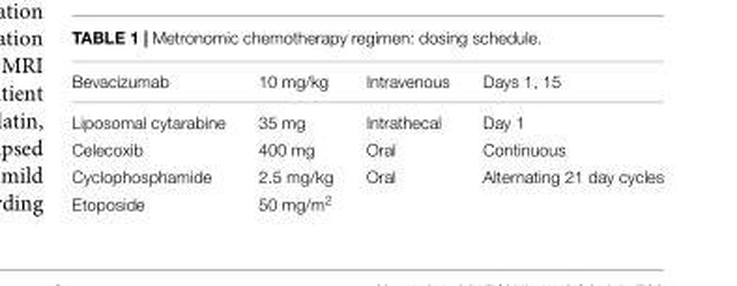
<table><thead><tr><td>Bevacizumab</td><td>10 mg/kg</td><td>Intravenous</td><td>Days 1, 15</td></tr></thead><tbody><tr><td>Liposomal cytarabine</td><td>35 mg</td><td>Intrathecal</td><td>Day 1</td></tr><tr><td>Celecoxib</td><td>400 mg</td><td>Oral</td><td>Continuous</td></tr><tr><td>Cyclophosphamide</td><td>2.5 mg/kg</td><td>Oral</td><td>Alternating 21 day cycles</td></tr><tr><td>Etoposide</td><td>50 mg/m<sup>2</sup></td><td></td><td></td></tr></tbody></table>